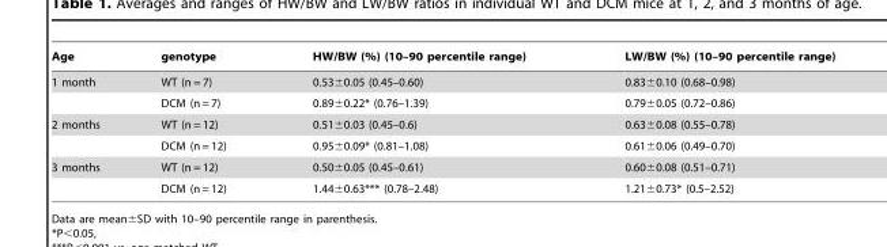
<table><thead><tr><td>Age</td><td>genotype</td><td>HW/BW (%) (10–90 percentile range)</td><td>LW/BW (%) (10–90 percentile range)</td></tr></thead><tbody><tr><td rowspan="2">1 month</td><td>WT (n = 7)</td><td>0.53±0.05 (0.45–0.60)</td><td>0.83±0.10 (0.68–0.98)</td></tr><tr><td>DCM (n = 7)</td><td>0.89±0.22* (0.76–1.39)</td><td>0.79±0.05 (0.72–0.86)</td></tr><tr><td rowspan="2">2 months</td><td>WT (n = 12)</td><td>0.51±0.03 (0.45–0.6)</td><td>0.63±0.08 (0.55–0.78)</td></tr><tr><td>DCM (n = 12)</td><td>0.95±0.09* (0.81–1.08)</td><td>0.61±0.06 (0.49–0.70)</td></tr><tr><td rowspan="2">3 months</td><td>WT (n = 12)</td><td>0.50±0.05 (0.45–0.61)</td><td>0.60±0.08 (0.51–0.71)</td></tr><tr><td>DCM (n = 12)</td><td>1.44±0.63*** (0.78–2.48)</td><td>1.21±0.73* (0.5–2.52)</td></tr></tbody></table>